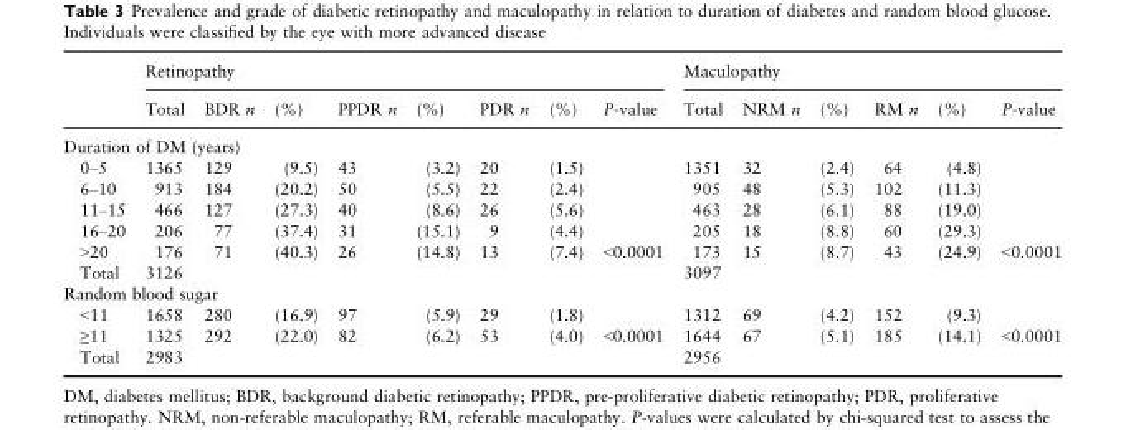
<table><thead><tr><td rowspan="2"></td><td colspan="8">Retinopathy</td><td colspan="6">Maculopathy</td></tr><tr><td>Total</td><td>BDR n</td><td>(%)</td><td>PPDR n</td><td>(%)</td><td>PDR n</td><td>(%)</td><td>P-value</td><td>Total</td><td>NRM n</td><td>(%)</td><td>RM n</td><td>(%)</td><td>P-value</td></tr></thead><tbody><tr><td colspan="15">Duration of DM (years)</td></tr><tr><td>0–5</td><td>1365</td><td>129</td><td>(9.5)</td><td>43</td><td>(3.2)</td><td>20</td><td>(1.5)</td><td></td><td>1351</td><td>32</td><td>(2.4)</td><td>64</td><td>(4.8)</td><td></td></tr><tr><td>6–10</td><td>913</td><td>184</td><td>(20.2)</td><td>50</td><td>(5.5)</td><td>22</td><td>(2.4)</td><td></td><td>905</td><td>48</td><td>(5.3)</td><td>102</td><td>(11.3)</td><td></td></tr><tr><td>11–15</td><td>466</td><td>127</td><td>(27.3)</td><td>40</td><td>(8.6)</td><td>26</td><td>(5.6)</td><td></td><td>463</td><td>28</td><td>(6.1)</td><td>88</td><td>(19.0)</td><td></td></tr><tr><td>16–20</td><td>206</td><td>77</td><td>(37.4)</td><td>31</td><td>(15.1)</td><td>9</td><td>(4.4)</td><td></td><td>205</td><td>18</td><td>(8.8)</td><td>60</td><td>(29.3)</td><td></td></tr><tr><td>&gt;20</td><td>176</td><td>71</td><td>(40.3)</td><td>26</td><td>(14.8)</td><td>13</td><td>(7.4)</td><td>&lt;0.0001</td><td>173</td><td>15</td><td>(8.7)</td><td>43</td><td>(24.9)</td><td>&lt;0.0001</td></tr><tr><td>Total</td><td>3126</td><td></td><td></td><td></td><td></td><td></td><td></td><td></td><td>3097</td><td></td><td></td><td></td><td></td><td></td></tr><tr><td colspan="15">Random blood sugar</td></tr><tr><td>&lt;11</td><td>1658</td><td>280</td><td>(16.9)</td><td>97</td><td>(5.9)</td><td>29</td><td>(1.8)</td><td></td><td>1312</td><td>69</td><td>(4.2)</td><td>152</td><td>(9.3)</td><td></td></tr><tr><td>≥11</td><td>1325</td><td>292</td><td>(22.0)</td><td>82</td><td>(6.2)</td><td>53</td><td>(4.0)</td><td>&lt;0.0001</td><td>1644</td><td>67</td><td>(5.1)</td><td>185</td><td>(14.1)</td><td>&lt;0.0001</td></tr><tr><td>Total</td><td>2983</td><td></td><td></td><td></td><td></td><td></td><td></td><td></td><td>2956</td><td></td><td></td><td></td><td></td><td></td></tr></tbody></table>